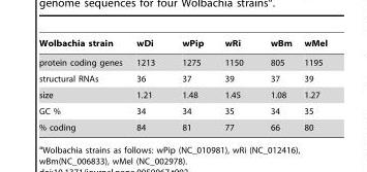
<table><thead><tr><td>Wolbachia strain</td><td>wDi</td><td>wPip</td><td>wRi</td><td>wBm</td><td>wMel</td></tr></thead><tbody><tr><td>protein coding genes</td><td>1213</td><td>1275</td><td>1150</td><td>805</td><td>1195</td></tr><tr><td>structural RNAs</td><td>36</td><td>37</td><td>39</td><td>37</td><td>39</td></tr><tr><td>size</td><td>1.21</td><td>1.48</td><td>1.45</td><td>1.08</td><td>1.27</td></tr><tr><td>GC %</td><td>34</td><td>34</td><td>35</td><td>34</td><td>35</td></tr><tr><td>% coding</td><td>84</td><td>81</td><td>77</td><td>66</td><td>80</td></tr></tbody></table>